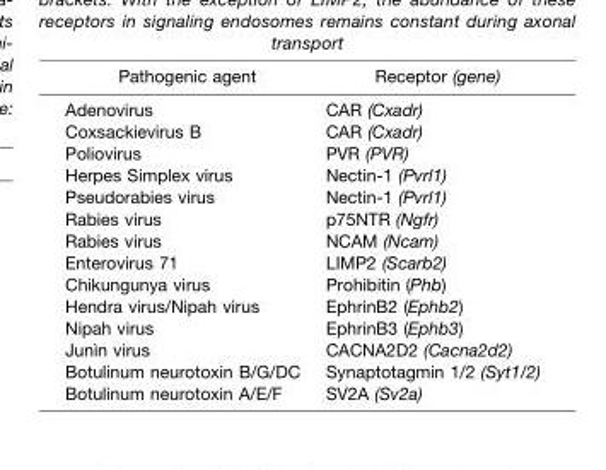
<table><thead><tr><td>Pathogenic agent</td><td>Receptor (gene)</td></tr></thead><tbody><tr><td>Adenovirus</td><td>CAR (Cxadr)</td></tr><tr><td>Coxsackievirus B</td><td>CAR (Cxadr)</td></tr><tr><td>Poliovirus</td><td>PVR (PVR)</td></tr><tr><td>Herpes Simplex virus</td><td>Nectin-1 (Pvrl1)</td></tr><tr><td>Pseudorabies virus</td><td>Nectin-1 (Pvrl1)</td></tr><tr><td>Rabies virus</td><td>p75NTR (Ngfr)</td></tr><tr><td>Rabies virus</td><td>NCAM (Ncam)</td></tr><tr><td>Enterovirus 71</td><td>LIMP2 (Scarb2)</td></tr><tr><td>Chikungunya virus</td><td>Prohibitin (Phb)</td></tr><tr><td>Hendra virus/Nipah virus</td><td>EphrinB2 (Ephb2)</td></tr><tr><td>Nipah virus</td><td>EphrinB3 (Ephb3)</td></tr><tr><td>Junìn virus</td><td>CACNA2D2 (Cacna2d2)</td></tr><tr><td>Botulinum neurotoxin B/G/DC</td><td>Synaptotagmin 1/2 (Syt1/2)</td></tr><tr><td>Botulinum neurotoxin A/E/F</td><td>SV2A (Sv2a)</td></tr></tbody></table>